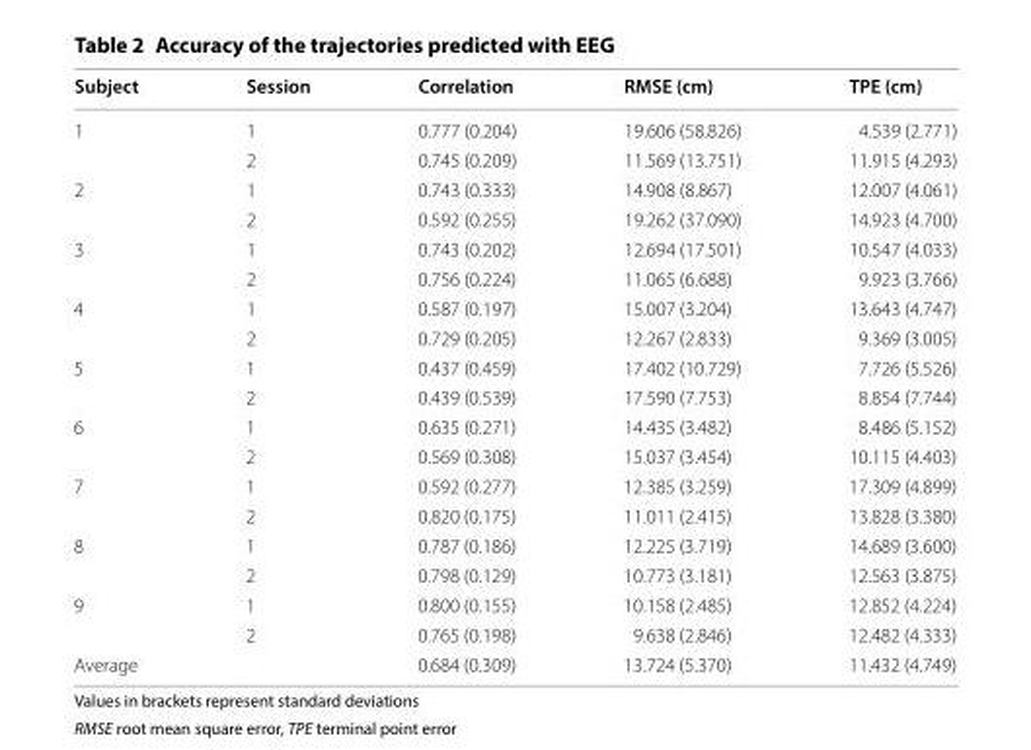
<table><thead><tr><td>Subject</td><td>Session</td><td>Correlation</td><td>RMSE (cm)</td><td>TPE (cm)</td></tr></thead><tbody><tr><td rowspan="2">1</td><td>1</td><td>0.777 (0.204)</td><td>19.606 (58.826)</td><td>4.539 (2.771)</td></tr><tr><td>2</td><td>0.745 (0.209)</td><td>11.569 (13.751)</td><td>11.915 (4.293)</td></tr><tr><td rowspan="2">2</td><td>1</td><td>0.743 (0.333)</td><td>14.908 (8.867)</td><td>12.007 (4.061)</td></tr><tr><td>2</td><td>0.592 (0.255)</td><td>19.262 (37.090)</td><td>14.923 (4.700)</td></tr><tr><td rowspan="2">3</td><td>1</td><td>0.743 (0.202)</td><td>12.694 (17.501)</td><td>10.547 (4.033)</td></tr><tr><td>2</td><td>0.756 (0.224)</td><td>11.065 (6.688)</td><td>9.923 (3.766)</td></tr><tr><td rowspan="2">4</td><td>1</td><td>0.587 (0.197)</td><td>15.007 (3.204)</td><td>13.643 (4.747)</td></tr><tr><td>2</td><td>0.729 (0.205)</td><td>12.267 (2.833)</td><td>9.369 (3.005)</td></tr><tr><td rowspan="2">5</td><td>1</td><td>0.437 (0.459)</td><td>17.402 (10.729)</td><td>7.726 (5.526)</td></tr><tr><td>2</td><td>0.439 (0.539)</td><td>17.590 (7.753)</td><td>8.854 (7.744)</td></tr><tr><td rowspan="2">6</td><td>1</td><td>0.635 (0.271)</td><td>14.435 (3.482)</td><td>8.486 (5.152)</td></tr><tr><td>2</td><td>0.569 (0.308)</td><td>15.037 (3.454)</td><td>10.115 (4.403)</td></tr><tr><td rowspan="2">7</td><td>1</td><td>0.592 (0.277)</td><td>12.385 (3.259)</td><td>17.309 (4.899)</td></tr><tr><td>2</td><td>0.820 (0.175)</td><td>11.011 (2.415)</td><td>13.828 (3.380)</td></tr><tr><td rowspan="2">8</td><td>1</td><td>0.787 (0.186)</td><td>12.225 (3.719)</td><td>14.689 (3.600)</td></tr><tr><td>2</td><td>0.798 (0.129)</td><td>10.773 (3.181)</td><td>12.563 (3.875)</td></tr><tr><td rowspan="2">9</td><td>1</td><td>0.800 (0.155)</td><td>10.158 (2.485)</td><td>12.852 (4.224)</td></tr><tr><td>2</td><td>0.765 (0.198)</td><td>9.638 (2.846)</td><td>12.482 (4.333)</td></tr><tr><td>Average</td><td></td><td>0.684 (0.309)</td><td>13.724 (5.370)</td><td>11.432 (4.749)</td></tr></tbody></table>